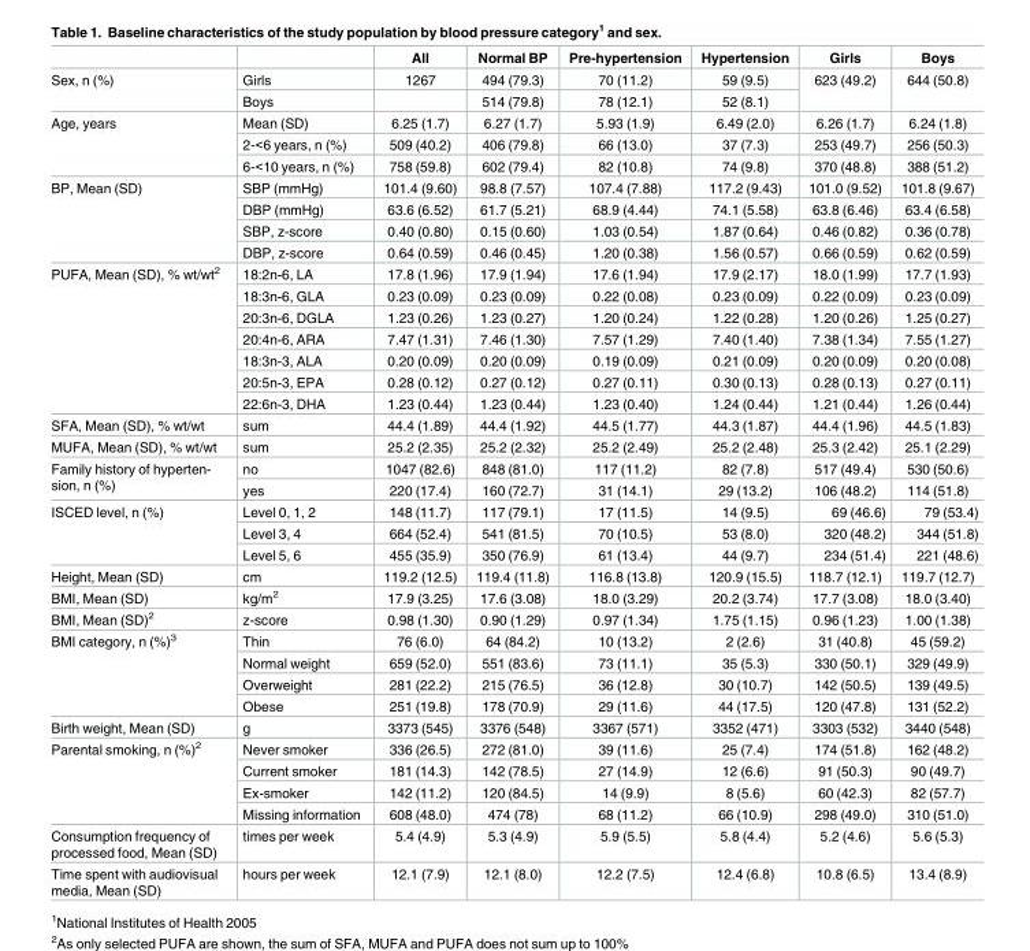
<table><thead><tr><td></td><td></td><td>All</td><td>Normal BP</td><td>Pre-hypertension</td><td>Hypertension</td><td>Girls</td><td>Boys</td></tr></thead><tbody><tr><td rowspan="2">Sex, n (%)</td><td>Girls</td><td>1267</td><td>494 (79.3)</td><td>70 (11.2)</td><td>59 (9.5)</td><td rowspan="2">623 (49.2)</td><td rowspan="2">644 (50.8)</td></tr><tr><td>Boys</td><td></td><td>514 (79.8)</td><td>78 (12.1)</td><td>52 (8.1)</td></tr><tr><td rowspan="3">Age, years</td><td>Mean (SD)</td><td>6.25 (1.7)</td><td>6.27 (1.7)</td><td>5.93 (1.9)</td><td>6.49 (2.0)</td><td>6.26 (1.7)</td><td>6.24 (1.8)</td></tr><tr><td>2-&lt;6 years, n (%)</td><td>509 (40.2)</td><td>406 (79.8)</td><td>66 (13.0)</td><td>37 (7.3)</td><td>253 (49.7)</td><td>256 (50.3)</td></tr><tr><td>6-&lt;10 years, n (%)</td><td>758 (59.8)</td><td>602 (79.4)</td><td>82 (10.8)</td><td>74 (9.8)</td><td>370 (48.8)</td><td>388 (51.2)</td></tr><tr><td rowspan="4">BP, Mean (SD)</td><td>SBP (mmHg)</td><td>101.4 (9.60)</td><td>98.8 (7.57)</td><td>107.4 (7.88)</td><td>117.2 (9.43)</td><td>101.0 (9.52)</td><td>101.8 (9.67)</td></tr><tr><td>DBP (mmHg)</td><td>63.6 (6.52)</td><td>61.7 (5.21)</td><td>68.9 (4.44)</td><td>74.1 (5.58)</td><td>63.8 (6.46)</td><td>63.4 (6.58)</td></tr><tr><td>SBP, z-score</td><td>0.40 (0.80)</td><td>0.15 (0.60)</td><td>1.03 (0.54)</td><td>1.87 (0.64)</td><td>0.46 (0.82)</td><td>0.36 (0.78)</td></tr><tr><td>DBP, z-score</td><td>0.64 (0.59)</td><td>0.46 (0.45)</td><td>1.20 (0.38)</td><td>1.56 (0.57)</td><td>0.66 (0.59)</td><td>0.62 (0.59)</td></tr><tr><td rowspan="7">PUFA, Mean (SD), % wt/wt<sup>2</sup></td><td>18:2n-6, LA</td><td>17.8 (1.96)</td><td>17.9 (1.94)</td><td>17.6 (1.94)</td><td>17.9 (2.17)</td><td>18.0 (1.99)</td><td>17.7 (1.93)</td></tr><tr><td>18:3n-6, GLA</td><td>0.23 (0.09)</td><td>0.23 (0.09)</td><td>0.22 (0.08)</td><td>0.23 (0.09)</td><td>0.22 (0.09)</td><td>0.23 (0.09)</td></tr><tr><td>20:3n-6, DGLA</td><td>1.23 (0.26)</td><td>1.23 (0.27)</td><td>1.20 (0.24)</td><td>1.22 (0.28)</td><td>1.20 (0.26)</td><td>1.25 (0.27)</td></tr><tr><td>20:4n-6, ARA</td><td>7.47 (1.31)</td><td>7.46 (1.30)</td><td>7.57 (1.29)</td><td>7.40 (1.40)</td><td>7.38 (1.34)</td><td>7.55 (1.27)</td></tr><tr><td>18:3n-3, ALA</td><td>0.20 (0.09)</td><td>0.20 (0.09)</td><td>0.19 (0.09)</td><td>0.21 (0.09)</td><td>0.20 (0.09)</td><td>0.20 (0.08)</td></tr><tr><td>20:5n-3, EPA</td><td>0.28 (0.12)</td><td>0.27 (0.12)</td><td>0.27 (0.11)</td><td>0.30 (0.13)</td><td>0.28 (0.13)</td><td>0.27 (0.11)</td></tr><tr><td>22:6n-3, DHA</td><td>1.23 (0.44)</td><td>1.23 (0.44)</td><td>1.23 (0.40)</td><td>1.24 (0.44)</td><td>1.21 (0.44)</td><td>1.26 (0.44)</td></tr><tr><td>SFA, Mean (SD), % wt/wt</td><td>sum</td><td>44.4 (1.89)</td><td>44.4 (1.92)</td><td>44.5 (1.77)</td><td>44.3 (1.87)</td><td>44.4 (1.96)</td><td>44.5 (1.83)</td></tr><tr><td>MUFA, Mean (SD), % wt/wt</td><td>sum</td><td>25.2 (2.35)</td><td>25.2 (2.32)</td><td>25.2 (2.49)</td><td>25.2 (2.48)</td><td>25.3 (2.42)</td><td>25.1 (2.29)</td></tr><tr><td rowspan="2">Family history of hyperten- sion, n (%)</td><td>no</td><td>1047 (82.6)</td><td>848 (81.0)</td><td>117 (11.2)</td><td>82 (7.8)</td><td>517 (49.4)</td><td>530 (50.6)</td></tr><tr><td>yes</td><td>220 (17.4)</td><td>160 (72.7)</td><td>31 (14.1)</td><td>29 (13.2)</td><td>106 (48.2)</td><td>114 (51.8)</td></tr><tr><td rowspan="3">ISCED level, n (%)</td><td>Level 0, 1, 2</td><td>148 (11.7)</td><td>117 (79.1)</td><td>17 (11.5)</td><td>14 (9.5)</td><td>69 (46.6)</td><td>79 (53.4)</td></tr><tr><td>Level 3, 4</td><td>664 (52.4)</td><td>541 (81.5)</td><td>70 (10.5)</td><td>53 (8.0)</td><td>320 (48.2)</td><td>344 (51.8)</td></tr><tr><td>Level 5, 6</td><td>455 (35.9)</td><td>350 (76.9)</td><td>61 (13.4)</td><td>44 (9.7)</td><td>234 (51.4)</td><td>221 (48.6)</td></tr><tr><td>Height, Mean (SD)</td><td>cm</td><td>119.2 (12.5)</td><td>119.4 (11.8)</td><td>116.8 (13.8)</td><td>120.9 (15.5)</td><td>118.7 (12.1)</td><td>119.7 (12.7)</td></tr><tr><td>BMI, Mean (SD)</td><td>kg/m<sup>2</sup></td><td>17.9 (3.25)</td><td>17.6 (3.08)</td><td>18.0 (3.29)</td><td>20.2 (3.74)</td><td>17.7 (3.08)</td><td>18.0 (3.40)</td></tr><tr><td>BMI, Mean (SD)<sup>2</sup></td><td>z-score</td><td>0.98 (1.30)</td><td>0.90 (1.29)</td><td>0.97 (1.34)</td><td>1.75 (1.15)</td><td>0.96 (1.23)</td><td>1.00 (1.38)</td></tr><tr><td rowspan="4">BMI category, n (%)<sup>3</sup></td><td>Thin</td><td>76 (6.0)</td><td>64 (84.2)</td><td>10 (13.2)</td><td>2 (2.6)</td><td>31 (40.8)</td><td>45 (59.2)</td></tr><tr><td>Normal weight</td><td>659 (52.0)</td><td>551 (83.6)</td><td>73 (11.1)</td><td>35 (5.3)</td><td>330 (50.1)</td><td>329 (49.9)</td></tr><tr><td>Overweight</td><td>281 (22.2)</td><td>215 (76.5)</td><td>36 (12.8)</td><td>30 (10.7)</td><td>142 (50.5)</td><td>139 (49.5)</td></tr><tr><td>Obese</td><td>251 (19.8)</td><td>178 (70.9)</td><td>29 (11.6)</td><td>44 (17.5)</td><td>120 (47.8)</td><td>131 (52.2)</td></tr><tr><td>Birth weight, Mean (SD)</td><td>g</td><td>3373 (545)</td><td>3376 (548)</td><td>3367 (571)</td><td>3352 (471)</td><td>3303 (532)</td><td>3440 (548)</td></tr><tr><td rowspan="4">Parental smoking, n (%)<sup>2</sup></td><td>Never smoker</td><td>336 (26.5)</td><td>272 (81.0)</td><td>39 (11.6)</td><td>25 (7.4)</td><td>174 (51.8)</td><td>162 (48.2)</td></tr><tr><td>Current smoker</td><td>181 (14.3)</td><td>142 (78.5)</td><td>27 (14.9)</td><td>12 (6.6)</td><td>91 (50.3)</td><td>90 (49.7)</td></tr><tr><td>Ex-smoker</td><td>142 (11.2)</td><td>120 (84.5)</td><td>14 (9.9)</td><td>8 (5.6)</td><td>60 (42.3)</td><td>82 (57.7)</td></tr><tr><td>Missing information</td><td>608 (48.0)</td><td>474 (78)</td><td>68 (11.2)</td><td>66 (10.9)</td><td>298 (49.0)</td><td>310 (51.0)</td></tr><tr><td>Consumption frequency of processed food, Mean (SD)</td><td>times per week</td><td>5.4 (4.9)</td><td>5.3 (4.9)</td><td>5.9 (5.5)</td><td>5.8 (4.4)</td><td>5.2 (4.6)</td><td>5.6 (5.3)</td></tr><tr><td>Time spent with audiovisual media, Mean (SD)</td><td>hours per week</td><td>12.1 (7.9)</td><td>12.1 (8.0)</td><td>12.2 (7.5)</td><td>12.4 (6.8)</td><td>10.8 (6.5)</td><td>13.4 (8.9)</td></tr></tbody></table>